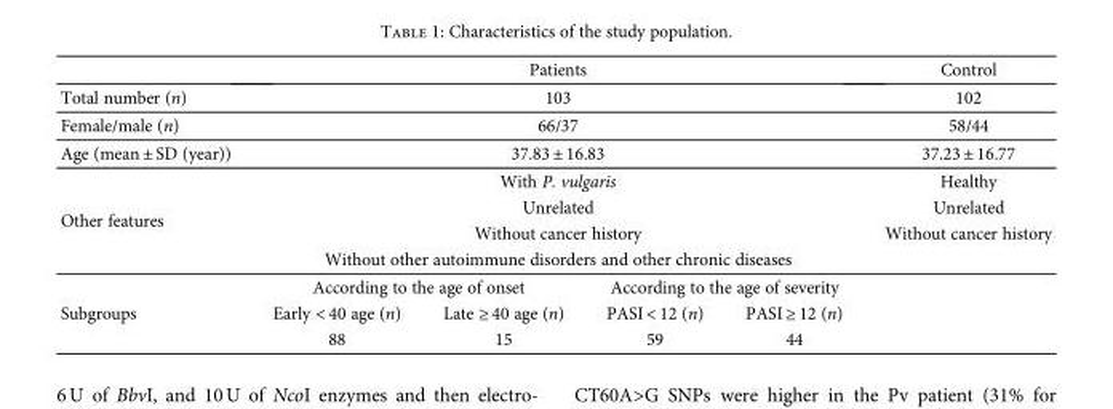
<table><thead><tr><td></td><td colspan="4">Patients</td><td>Control</td></tr></thead><tbody><tr><td>Total number (n)</td><td colspan="4">103</td><td>102</td></tr><tr><td>Female/male (n)</td><td colspan="4">66/37</td><td>58/44</td></tr><tr><td>Age (mean ± SD (year))</td><td colspan="4">37.83 ± 16.83</td><td>37.23 ± 16.77</td></tr><tr><td rowspan="4">Other features</td><td colspan="4">With P. vulgaris</td><td>Healthy</td></tr><tr><td colspan="4">Unrelated</td><td>Unrelated</td></tr><tr><td colspan="4">Without cancer history</td><td>Without cancer history</td></tr><tr><td colspan="4">Without other autoimmune disorders and other chronic diseases</td><td></td></tr><tr><td rowspan="3">Subgroups</td><td colspan="2">According to the age of onset</td><td colspan="2">According to the age of severity</td><td rowspan="3"></td></tr><tr><td>Early &lt; 40 age (n)</td><td>Late ≥ 40 age (n)</td><td>PASI &lt; 12 (n)</td><td>PASI ≥ 12 (n)</td></tr><tr><td>88</td><td>15</td><td>59</td><td>44</td></tr></tbody></table>